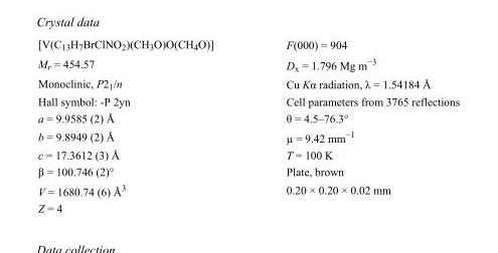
<table><tbody><tr><td>[V(C<sub>13</sub>H<sub>7</sub>BrClNO<sub>2</sub>)(CH<sub>3</sub>O)O(CH<sub>4</sub>O)]</td><td>F(000) = 904</td></tr><tr><td>M<sub>r</sub> = 454.57</td><td>D<sub>x</sub> = 1.796 Mg m<sup>−3</sup></td></tr><tr><td>Monoclinic, P2<sub>1</sub>/n</td><td>Cu Kα radiation, λ = 1.54184 Å</td></tr><tr><td>Hall symbol: -P 2yn</td><td>Cell parameters from 3765 reflections</td></tr><tr><td>a = 9.9585 (2) Å</td><td>θ = 4.5–76.3°</td></tr><tr><td>b = 9.8949 (2) Å</td><td>µ = 9.42 mm<sup>−1</sup></td></tr><tr><td>c = 17.3612 (3) Å</td><td>T = 100 K</td></tr><tr><td>β = 100.746 (2)°</td><td>Plate, brown</td></tr><tr><td>V = 1680.74 (6) Å<sup>3</sup></td><td>0.20 × 0.20 × 0.02 mm</td></tr><tr><td>Z = 4</td><td></td></tr></tbody></table>